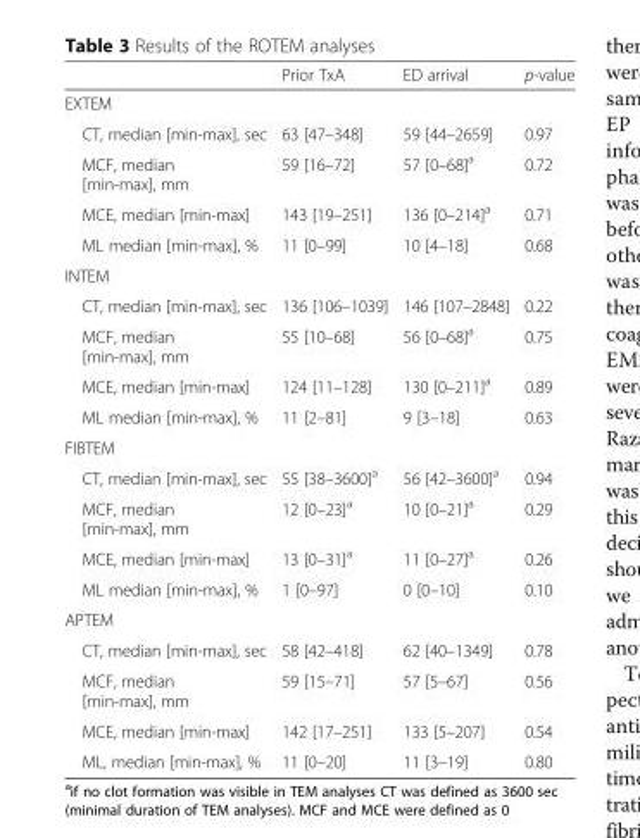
<table><thead><tr><td></td><td>Prior TxA</td><td>ED arrival</td><td>p-value</td></tr></thead><tbody><tr><td colspan="4">EXTEM</td></tr><tr><td>CT, median [min-max], sec</td><td>63 [47–348]</td><td>59 [44–2659]</td><td>0.97</td></tr><tr><td>MCF, median [min-max], mm</td><td>59 [16–72]</td><td>57 [0–68]<sup>a</sup></td><td>0.72</td></tr><tr><td>MCE, median [min-max]</td><td>143 [19–251]</td><td>136 [0–214]<sup>a</sup></td><td>0.71</td></tr><tr><td>ML median [min-max], %</td><td>11 [0–99]</td><td>10 [4–18]</td><td>0.68</td></tr><tr><td colspan="4">INTEM</td></tr><tr><td>CT, median [min-max], sec</td><td>136 [106–1039]</td><td>146 [107–2848]</td><td>0.22</td></tr><tr><td>MCF, median [min-max], mm</td><td>55 [10–68]</td><td>56 [0–68]<sup>a</sup></td><td>0.75</td></tr><tr><td>MCE, median [min-max]</td><td>124 [11–128]</td><td>130 [0–211]<sup>a</sup></td><td>0.89</td></tr><tr><td>ML median [min-max], %</td><td>11 [2–81]</td><td>9 [3–18]</td><td>0.63</td></tr><tr><td colspan="4">FIBTEM</td></tr><tr><td>CT, median [min-max], sec</td><td>55 [38–3600]<sup>a</sup></td><td>56 [42–3600]<sup>a</sup></td><td>0.94</td></tr><tr><td>MCF, median [min-max], mm</td><td>12 [0–23]<sup>a</sup></td><td>10 [0–21]<sup>a</sup></td><td>0.29</td></tr><tr><td>MCE, median [min-max]</td><td>13 [0–31]<sup>a</sup></td><td>11 [0–27]<sup>a</sup></td><td>0.26</td></tr><tr><td>ML median [min-max], %</td><td>1 [0–97]</td><td>0 [0–10]</td><td>0.10</td></tr><tr><td colspan="4">APTEM</td></tr><tr><td>CT, median [min-max], sec</td><td>58 [42–418]</td><td>62 [40–1349]</td><td>0.78</td></tr><tr><td>MCF, median [min-max], mm</td><td>59 [15–71]</td><td>57 [5–67]</td><td>0.56</td></tr><tr><td>MCE, median [min-max]</td><td>142 [17–251]</td><td>133 [5–207]</td><td>0.54</td></tr><tr><td>ML, median [min-max], %</td><td>11 [0–20]</td><td>11 [3–19]</td><td>0.80</td></tr></tbody></table>